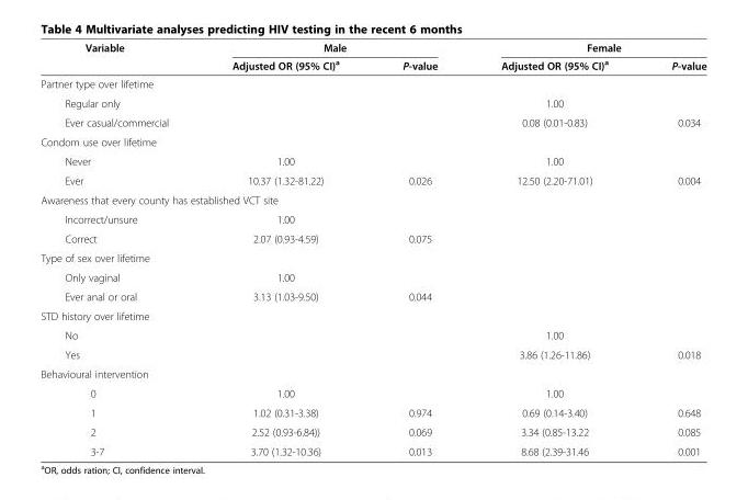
<table><thead><tr><td rowspan="2">Variable</td><td colspan="2">Male</td><td colspan="2">Female</td></tr><tr><td>Adjusted OR (95% CI)<sup>a</sup></td><td>P-value</td><td>Adjusted OR (95% CI)<sup>a</sup></td><td>P-value</td></tr></thead><tbody><tr><td colspan="5">Partner type over lifetime</td></tr><tr><td>Regular only</td><td></td><td></td><td>1.00</td><td></td></tr><tr><td>Ever casual/commercial</td><td></td><td></td><td>0.08 (0.01-0.83)</td><td>0.034</td></tr><tr><td colspan="5">Condom use over lifetime</td></tr><tr><td>Never</td><td>1.00</td><td></td><td>1.00</td><td></td></tr><tr><td>Ever</td><td>10.37 (1.32-81.22)</td><td>0.026</td><td>12.50 (2.20-71.01)</td><td>0.004</td></tr><tr><td colspan="5">Awareness that every county has established VCT site</td></tr><tr><td>Incorrect/unsure</td><td>1.00</td><td></td><td></td><td></td></tr><tr><td>Correct</td><td>2.07 (0.93-4.59)</td><td>0.075</td><td></td><td></td></tr><tr><td colspan="5">Type of sex over lifetime</td></tr><tr><td>Only vaginal</td><td>1.00</td><td></td><td></td><td></td></tr><tr><td>Ever anal or oral</td><td>3.13 (1.03-9.50)</td><td>0.044</td><td></td><td></td></tr><tr><td colspan="5">STD history over lifetime</td></tr><tr><td>No</td><td></td><td></td><td>1.00</td><td></td></tr><tr><td>Yes</td><td></td><td></td><td>3.86 (1.26-11.86)</td><td>0.018</td></tr><tr><td colspan="5">Behavioural intervention</td></tr><tr><td>0</td><td>1.00</td><td></td><td>1.00</td><td></td></tr><tr><td>1</td><td>1.02 (0.31-3.38)</td><td>0.974</td><td>0.69 (0.14-3.40)</td><td>0.648</td></tr><tr><td>2</td><td>2.52 (0.93-6.84))</td><td>0.069</td><td>3.34 (0.85-13.22</td><td>0.085</td></tr><tr><td>3-7</td><td>3.70 (1.32-10.36)</td><td>0.013</td><td>8.68 (2.39-31.46</td><td>0.001</td></tr></tbody></table>